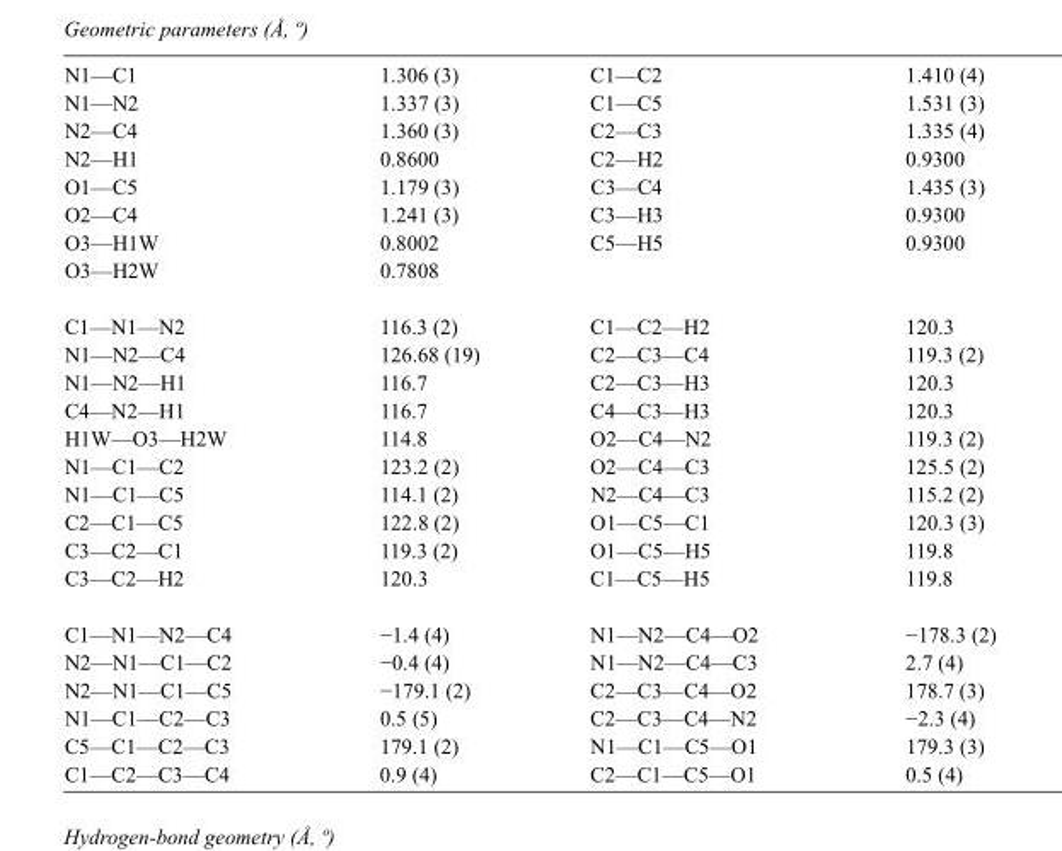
<table><tbody><tr><td>N1—C1</td><td>1.306 (3)</td><td>C1—C2</td><td>1.410 (4)</td></tr><tr><td>N1—N2</td><td>1.337 (3)</td><td>C1—C5</td><td>1.531 (3)</td></tr><tr><td>N2—C4</td><td>1.360 (3)</td><td>C2—C3</td><td>1.335 (4)</td></tr><tr><td>N2—H1</td><td>0.8600</td><td>C2—H2</td><td>0.9300</td></tr><tr><td>O1—C5</td><td>1.179 (3)</td><td>C3—C4</td><td>1.435 (3)</td></tr><tr><td>O2—C4</td><td>1.241 (3)</td><td>C3—H3</td><td>0.9300</td></tr><tr><td>O3—H1W</td><td>0.8002</td><td>C5—H5</td><td>0.9300</td></tr><tr><td>O3—H2W</td><td>0.7808</td><td></td><td></td></tr><tr><td>C1—N1—N2</td><td>116.3 (2)</td><td>C1—C2—H2</td><td>120.3</td></tr><tr><td>N1—N2—C4</td><td>126.68 (19)</td><td>C2—C3—C4</td><td>119.3 (2)</td></tr><tr><td>N1—N2—H1</td><td>116.7</td><td>C2—C3—H3</td><td>120.3</td></tr><tr><td>C4—N2—H1</td><td>116.7</td><td>C4—C3—H3</td><td>120.3</td></tr><tr><td>H1W—O3—H2W</td><td>114.8</td><td>O2—C4—N2</td><td>119.3 (2)</td></tr><tr><td>N1—C1—C2</td><td>123.2 (2)</td><td>O2—C4—C3</td><td>125.5 (2)</td></tr><tr><td>N1—C1—C5</td><td>114.1 (2)</td><td>N2—C4—C3</td><td>115.2 (2)</td></tr><tr><td>C2—C1—C5</td><td>122.8 (2)</td><td>O1—C5—C1</td><td>120.3 (3)</td></tr><tr><td>C3—C2—C1</td><td>119.3 (2)</td><td>O1—C5—H5</td><td>119.8</td></tr><tr><td>C3—C2—H2</td><td>120.3</td><td>C1—C5—H5</td><td>119.8</td></tr><tr><td>C1—N1—N2—C4</td><td>−1.4 (4)</td><td>N1—N2—C4—O2</td><td>−178.3 (2)</td></tr><tr><td>N2—N1—C1—C2</td><td>−0.4 (4)</td><td>N1—N2—C4—C3</td><td>2.7 (4)</td></tr><tr><td>N2—N1—C1—C5</td><td>−179.1 (2)</td><td>C2—C3—C4—O2</td><td>178.7 (3)</td></tr><tr><td>N1—C1—C2—C3</td><td>0.5 (5)</td><td>C2—C3—C4—N2</td><td>−2.3 (4)</td></tr><tr><td>C5—C1—C2—C3</td><td>179.1 (2)</td><td>N1—C1—C5—O1</td><td>179.3 (3)</td></tr><tr><td>C1—C2—C3—C4</td><td>0.9 (4)</td><td>C2—C1—C5—O1</td><td>0.5 (4)</td></tr></tbody></table>